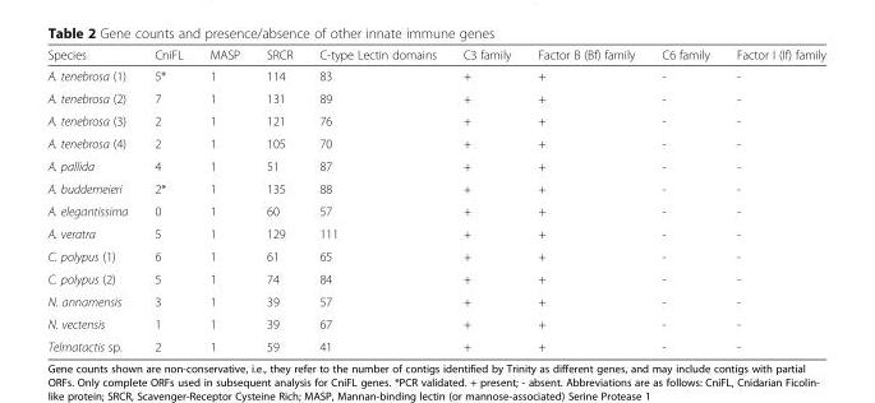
<table><thead><tr><td>Species</td><td>CniFL</td><td>MASP</td><td>SRCR</td><td>C-type Lectin domains</td><td>C3 family</td><td>Factor B (Bf) family</td><td>C6 family</td><td>Factor I (If) family</td></tr></thead><tbody><tr><td>A. tenebrosa (1)</td><td>5*</td><td>1</td><td>114</td><td>83</td><td>+</td><td>+</td><td>-</td><td>-</td></tr><tr><td>A. tenebrosa (2)</td><td>7</td><td>1</td><td>131</td><td>89</td><td>+</td><td>+</td><td>-</td><td>-</td></tr><tr><td>A. tenebrosa (3)</td><td>2</td><td>1</td><td>121</td><td>76</td><td>+</td><td>+</td><td>-</td><td>-</td></tr><tr><td>A. tenebrosa (4)</td><td>2</td><td>1</td><td>105</td><td>70</td><td>+</td><td>+</td><td>-</td><td>-</td></tr><tr><td>A. pallida</td><td>4</td><td>1</td><td>51</td><td>87</td><td>+</td><td>+</td><td>-</td><td>-</td></tr><tr><td>A. buddemeieri</td><td>2*</td><td>1</td><td>135</td><td>88</td><td>+</td><td>+</td><td>-</td><td>-</td></tr><tr><td>A. elegantissima</td><td>0</td><td>1</td><td>60</td><td>57</td><td>+</td><td>+</td><td>-</td><td>-</td></tr><tr><td>A. veratra</td><td>5</td><td>1</td><td>129</td><td>111</td><td>+</td><td>+</td><td>-</td><td>-</td></tr><tr><td>C. polypus (1)</td><td>6</td><td>1</td><td>61</td><td>65</td><td>+</td><td>+</td><td>-</td><td>-</td></tr><tr><td>C. polypus (2)</td><td>5</td><td>1</td><td>74</td><td>84</td><td>+</td><td>+</td><td>-</td><td>-</td></tr><tr><td>N. annamensis</td><td>3</td><td>1</td><td>39</td><td>57</td><td>+</td><td>+</td><td>-</td><td>-</td></tr><tr><td>N. vectensis</td><td>1</td><td>1</td><td>39</td><td>67</td><td>+</td><td>+</td><td>-</td><td>-</td></tr><tr><td>Telmatactis sp.</td><td>2</td><td>1</td><td>59</td><td>41</td><td>+</td><td>+</td><td>-</td><td>-</td></tr></tbody></table>